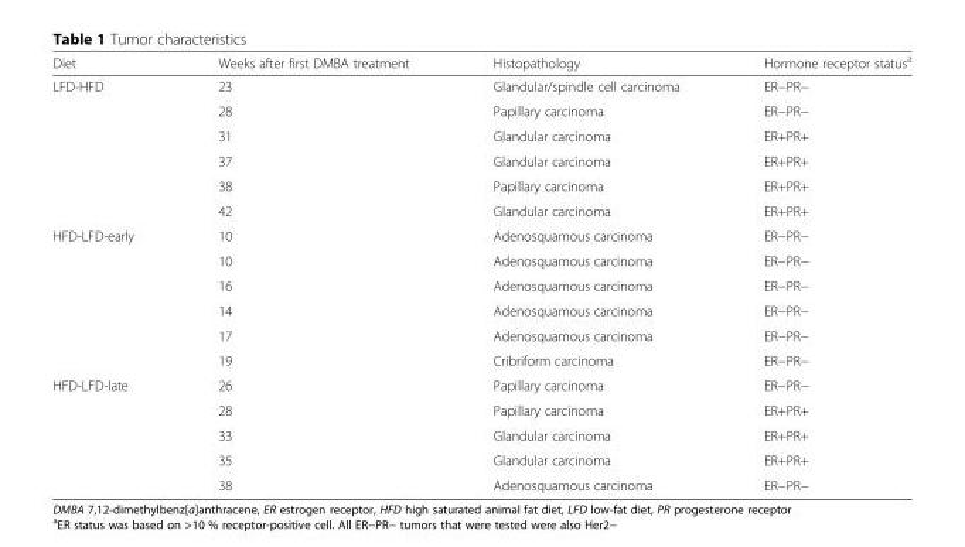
<table><thead><tr><td>Diet</td><td>Weeks after first DMBA treatment</td><td>Histopathology</td><td>Hormone receptor status<sup>a</sup></td></tr></thead><tbody><tr><td rowspan="6">LFD-HFD</td><td>23</td><td>Glandular/spindle cell carcinoma</td><td>ER−PR−</td></tr><tr><td>28</td><td>Papillary carcinoma</td><td>ER−PR−</td></tr><tr><td>31</td><td>Glandular carcinoma</td><td>ER+PR+</td></tr><tr><td>37</td><td>Glandular carcinoma</td><td>ER+PR+</td></tr><tr><td>38</td><td>Papillary carcinoma</td><td>ER+PR+</td></tr><tr><td>42</td><td>Glandular carcinoma</td><td>ER+PR+</td></tr><tr><td rowspan="6">HFD-LFD-early</td><td>10</td><td>Adenosquamous carcinoma</td><td>ER−PR−</td></tr><tr><td>10</td><td>Adenosquamous carcinoma</td><td>ER−PR−</td></tr><tr><td>16</td><td>Adenosquamous carcinoma</td><td>ER−PR−</td></tr><tr><td>14</td><td>Adenosquamous carcinoma</td><td>ER−PR−</td></tr><tr><td>17</td><td>Adenosquamous carcinoma</td><td>ER−PR−</td></tr><tr><td>19</td><td>Cribriform carcinoma</td><td>ER−PR−</td></tr><tr><td rowspan="5">HFD-LFD-late</td><td>26</td><td>Papillary carcinoma</td><td>ER−PR−</td></tr><tr><td>28</td><td>Papillary carcinoma</td><td>ER+PR+</td></tr><tr><td>33</td><td>Glandular carcinoma</td><td>ER+PR+</td></tr><tr><td>35</td><td>Glandular carcinoma</td><td>ER+PR+</td></tr><tr><td>38</td><td>Adenosquamous carcinoma</td><td>ER−PR−</td></tr></tbody></table>